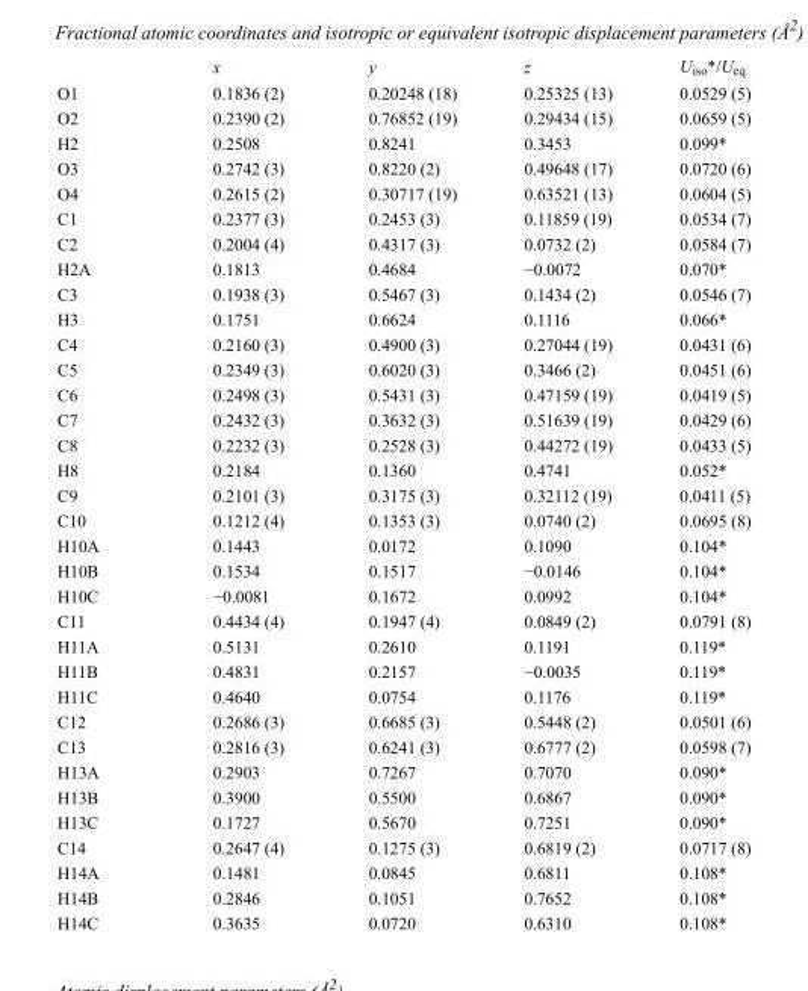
<table><thead><tr><td></td><td>x</td><td>y</td><td>z</td><td>U<sub>iso</sub>*/U<sub>eq</sub></td></tr></thead><tbody><tr><td>O1</td><td>0.1836 (2)</td><td>0.20248 (18)</td><td>0.25325 (13)</td><td>0.0529 (5)</td></tr><tr><td>O2</td><td>0.2390 (2)</td><td>0.76852 (19)</td><td>0.29434 (15)</td><td>0.0659 (5)</td></tr><tr><td>H2</td><td>0.2508</td><td>0.8241</td><td>0.3453</td><td>0.099*</td></tr><tr><td>O3</td><td>0.2742 (3)</td><td>0.8220 (2)</td><td>0.49648 (17)</td><td>0.0720 (6)</td></tr><tr><td>O4</td><td>0.2615 (2)</td><td>0.30717 (19)</td><td>0.63521 (13)</td><td>0.0604 (5)</td></tr><tr><td>C1</td><td>0.2377 (3)</td><td>0.2453 (3)</td><td>0.11859 (19)</td><td>0.0534 (7)</td></tr><tr><td>C2</td><td>0.2004 (4)</td><td>0.4317 (3)</td><td>0.0732 (2)</td><td>0.0584 (7)</td></tr><tr><td>H2A</td><td>0.1813</td><td>0.4684</td><td>−0.0072</td><td>0.070*</td></tr><tr><td>C3</td><td>0.1938 (3)</td><td>0.5467 (3)</td><td>0.1434 (2)</td><td>0.0546 (7)</td></tr><tr><td>H3</td><td>0.1751</td><td>0.6624</td><td>0.1116</td><td>0.066*</td></tr><tr><td>C4</td><td>0.2160 (3)</td><td>0.4900 (3)</td><td>0.27044 (19)</td><td>0.0431 (6)</td></tr><tr><td>C5</td><td>0.2349 (3)</td><td>0.6020 (3)</td><td>0.3466 (2)</td><td>0.0451 (6)</td></tr><tr><td>C6</td><td>0.2498 (3)</td><td>0.5431 (3)</td><td>0.47159 (19)</td><td>0.0419 (5)</td></tr><tr><td>C7</td><td>0.2432 (3)</td><td>0.3632 (3)</td><td>0.51639 (19)</td><td>0.0429 (6)</td></tr><tr><td>C8</td><td>0.2232 (3)</td><td>0.2528 (3)</td><td>0.44272 (19)</td><td>0.0433 (5)</td></tr><tr><td>H8</td><td>0.2184</td><td>0.1360</td><td>0.4741</td><td>0.052*</td></tr><tr><td>C9</td><td>0.2101 (3)</td><td>0.3175 (3)</td><td>0.32112 (19)</td><td>0.0411 (5)</td></tr><tr><td>C10</td><td>0.1212 (4)</td><td>0.1353 (3)</td><td>0.0740 (2)</td><td>0.0695 (8)</td></tr><tr><td>H10A</td><td>0.1443</td><td>0.0172</td><td>0.1090</td><td>0.104*</td></tr><tr><td>H10B</td><td>0.1534</td><td>0.1517</td><td>−0.0146</td><td>0.104*</td></tr><tr><td>H10C</td><td>−0.0081</td><td>0.1672</td><td>0.0992</td><td>0.104*</td></tr><tr><td>C11</td><td>0.4434 (4)</td><td>0.1947 (4)</td><td>0.0849 (2)</td><td>0.0791 (8)</td></tr><tr><td>H11A</td><td>0.5131</td><td>0.2610</td><td>0.1191</td><td>0.119*</td></tr><tr><td>H11B</td><td>0.4831</td><td>0.2157</td><td>−0.0035</td><td>0.119*</td></tr><tr><td>H11C</td><td>0.4640</td><td>0.0754</td><td>0.1176</td><td>0.119*</td></tr><tr><td>C12</td><td>0.2686 (3)</td><td>0.6685 (3)</td><td>0.5448 (2)</td><td>0.0501 (6)</td></tr><tr><td>C13</td><td>0.2816 (3)</td><td>0.6241 (3)</td><td>0.6777 (2)</td><td>0.0598 (7)</td></tr><tr><td>H13A</td><td>0.2903</td><td>0.7267</td><td>0.7070</td><td>0.090*</td></tr><tr><td>H13B</td><td>0.3900</td><td>0.5500</td><td>0.6867</td><td>0.090*</td></tr><tr><td>H13C</td><td>0.1727</td><td>0.5670</td><td>0.7251</td><td>0.090*</td></tr><tr><td>C14</td><td>0.2647 (4)</td><td>0.1275 (3)</td><td>0.6819 (2)</td><td>0.0717 (8)</td></tr><tr><td>H14A</td><td>0.1481</td><td>0.0845</td><td>0.6811</td><td>0.108*</td></tr><tr><td>H14B</td><td>0.2846</td><td>0.1051</td><td>0.7652</td><td>0.108*</td></tr><tr><td>H14C</td><td>0.3635</td><td>0.0720</td><td>0.6310</td><td>0.108*</td></tr></tbody></table>